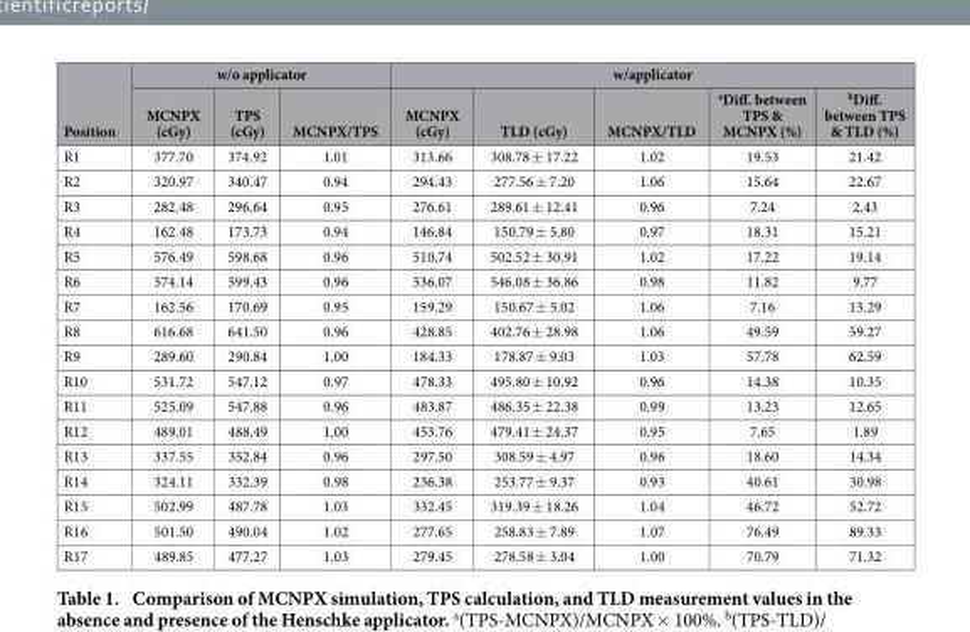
<table><thead><tr><td rowspan="2">Position</td><td colspan="3">w/o applicator</td><td colspan="5">w/applicator</td></tr><tr><td>MCNPX (cGy)</td><td>TPS (cGy)</td><td>MCNPX/TPS</td><td>MCNPX (cGy)</td><td>TLD (cGy)</td><td>MCNPX/TLD</td><td>aDiff. between TPS &amp; MCNPX (%)</td><td>bDiff. between TPS &amp; TLD (%)</td></tr></thead><tbody><tr><td>R1</td><td>377.70</td><td>374.92</td><td>1.01</td><td>313.66</td><td>308.78 ± 17.22</td><td>1.02</td><td>19.53</td><td>21.42</td></tr><tr><td>R2</td><td>320.97</td><td>340.47</td><td>0.94</td><td>294.43</td><td>277.56 ± 7.20</td><td>1.06</td><td>15.64</td><td>22.67</td></tr><tr><td>R3</td><td>282.48</td><td>296.64</td><td>0.95</td><td>276.61</td><td>289.61 ± 12.41</td><td>0.96</td><td>7.24</td><td>2.43</td></tr><tr><td>R4</td><td>162.48</td><td>173.73</td><td>0.94</td><td>146.84</td><td>150.79 ± 5.80</td><td>0.97</td><td>18.31</td><td>15.21</td></tr><tr><td>R5</td><td>576.49</td><td>598.68</td><td>0.96</td><td>510.74</td><td>502.52 ± 30.91</td><td>1.02</td><td>17.22</td><td>19.14</td></tr><tr><td>R6</td><td>574.14</td><td>599.43</td><td>0.96</td><td>536.07</td><td>546.08 ± 36.86</td><td>0.98</td><td>11.82</td><td>9.77</td></tr><tr><td>R7</td><td>162.56</td><td>170.69</td><td>0.95</td><td>159.29</td><td>150.67 ± 5.02</td><td>1.06</td><td>7.16</td><td>13.29</td></tr><tr><td>R8</td><td>616.68</td><td>641.50</td><td>0.96</td><td>428.85</td><td>402.76 ± 28.98</td><td>1.06</td><td>49.59</td><td>59.27</td></tr><tr><td>R9</td><td>289.60</td><td>290.84</td><td>1.00</td><td>184.33</td><td>178.87 ± 9.03</td><td>1.03</td><td>57.78</td><td>62.59</td></tr><tr><td>R10</td><td>531.72</td><td>547.12</td><td>0.97</td><td>478.33</td><td>495.80 ± 10.92</td><td>0.96</td><td>14.38</td><td>10.35</td></tr><tr><td>R11</td><td>525.09</td><td>547.88</td><td>0.96</td><td>483.87</td><td>486.35 ± 22.38</td><td>0.99</td><td>13.23</td><td>12.65</td></tr><tr><td>R12</td><td>489.01</td><td>488.49</td><td>1.00</td><td>453.76</td><td>479.41 ± 24.37</td><td>0.95</td><td>7.65</td><td>1.89</td></tr><tr><td>R13</td><td>337.55</td><td>352.84</td><td>0.96</td><td>297.50</td><td>308.59 ± 4.97</td><td>0.96</td><td>18.60</td><td>14.34</td></tr><tr><td>R14</td><td>324.11</td><td>332.39</td><td>0.98</td><td>236.38</td><td>253.77 ± 9.37</td><td>0.93</td><td>40.61</td><td>30.98</td></tr><tr><td>R15</td><td>502.99</td><td>487.78</td><td>1.03</td><td>332.45</td><td>319.39 ± 18.26</td><td>1.04</td><td>46.72</td><td>52.72</td></tr><tr><td>R16</td><td>501.50</td><td>490.04</td><td>1.02</td><td>277.65</td><td>258.83 ± 7.89</td><td>1.07</td><td>76.49</td><td>89.33</td></tr><tr><td>R17</td><td>489.85</td><td>477.27</td><td>1.03</td><td>279.45</td><td>278.58 ± 3.04</td><td>1.00</td><td>70.79</td><td>71.32</td></tr></tbody></table>